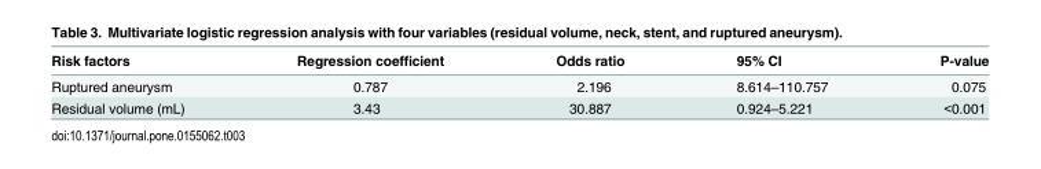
<table><thead><tr><td>Risk factors</td><td>Regression coefficient</td><td>Odds ratio</td><td>95% CI</td><td>P-value</td></tr></thead><tbody><tr><td>Ruptured aneurysm</td><td>0.787</td><td>2.196</td><td>8.614–110.757</td><td>0.075</td></tr><tr><td>Residual volume (mL)</td><td>3.43</td><td>30.887</td><td>0.924–5.221</td><td>&lt;0.001</td></tr></tbody></table>